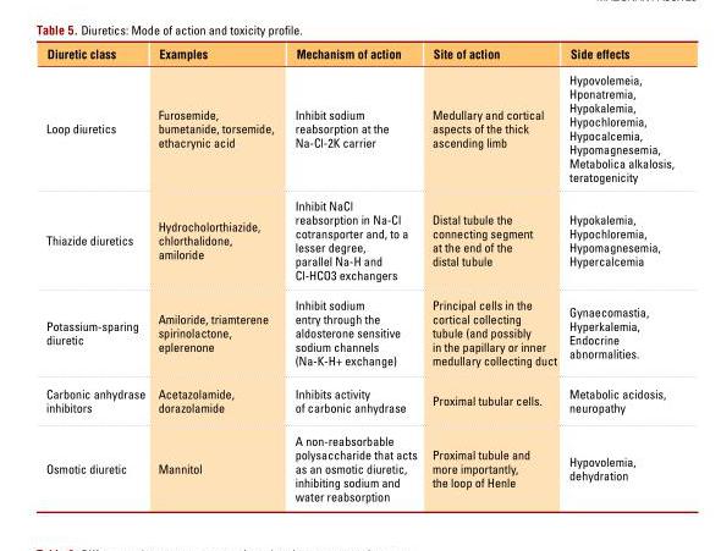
<table><thead><tr><td>Diuretic class</td><td>Examples</td><td>Mechanism of action</td><td>Site of action</td><td>Side effects</td></tr></thead><tbody><tr><td>Loop diuretics</td><td>Furosemide, bumetanide, torsemide, ethacrynic acid</td><td>Inhibit sodium reabsorption at the Na-Cl-2K carrier</td><td>Medullary and cortical aspects of the thick ascending limb</td><td>Hypovolemeia, Hponatremia, Hypokalemia, Hypochloremia, Hypocalcemia, Hypomagnesemia, Metabolica alkalosis, teratogenicity</td></tr><tr><td>Thiazide diuretics</td><td>Hydrocholorthiazide, chlorthalidone, amiloride</td><td>Inhibit NaCl reabsorption in Na-Cl cotransporter and, to a lesser degree, parallel Na-H and Cl-HCO3 exchangers</td><td>Distal tubule the connecting segment at the end of the distal tubule</td><td>Hypokalemia, Hypochloremia, Hypomagnesemia, Hypercalcemia</td></tr><tr><td>Potassium-sparing diuretic</td><td>Amiloride, triamterene spirinolactone, eplerenone</td><td>Inhibit sodium entry through the aldosterone sensitive sodium channels (Na-K-H+ exchange)</td><td>Principal cells in the cortical collecting tubule (and possibly in the papillary or inner medullary collecting duct</td><td>Gynaecomastia, Hyperkalemia, Endocrine abnormalities.</td></tr><tr><td>Carbonic anhydrase inhibitors</td><td>Acetazolamide, dorazolamide</td><td>Inhibits activity of carbonic anhydrase</td><td>Proximal tubular cells.</td><td>Metabolic acidosis, neuropathy</td></tr><tr><td>Osmotic diuretic</td><td>Mannitol</td><td>A non-reabsorbable polysaccharide that acts as an osmotic diuretic, inhibiting sodium and water reabsorption</td><td>Proximal tubule and more importantly, the loop of Henle</td><td>Hypovolemia, dehydration</td></tr></tbody></table>